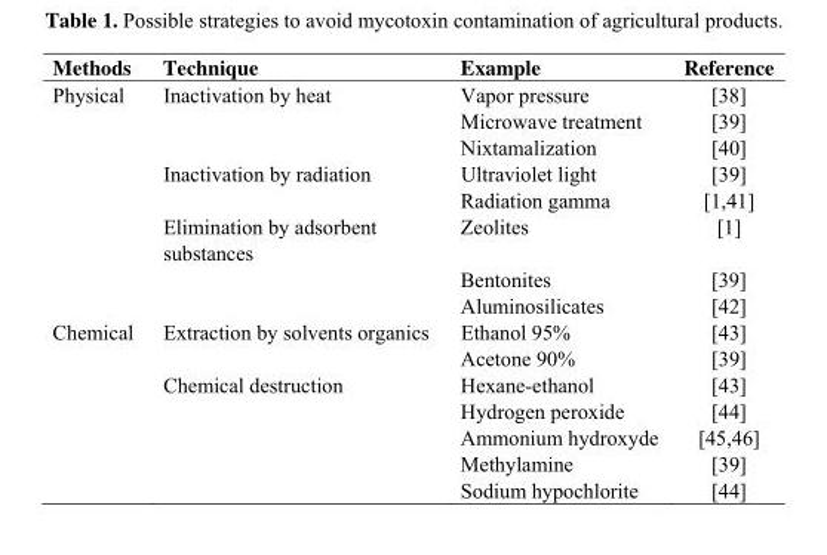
<table><thead><tr><td>Methods</td><td>Technique</td><td>Example</td><td>Reference</td></tr></thead><tbody><tr><td rowspan="8">Physical</td><td>Inactivation by heat</td><td>Vapor pressure</td><td>[38]</td></tr><tr><td></td><td>Microwave treatment</td><td>[39]</td></tr><tr><td></td><td>Nixtamalization</td><td>[40]</td></tr><tr><td>Inactivation by radiation</td><td>Ultraviolet light</td><td>[39]</td></tr><tr><td></td><td>Radiation gamma</td><td>[1,41]</td></tr><tr><td>Elimination by adsorbent substances</td><td>Zeolites</td><td>[1]</td></tr><tr><td></td><td>Bentonites</td><td>[39]</td></tr><tr><td></td><td>Aluminosilicates</td><td>[42]</td></tr><tr><td rowspan="7">Chemical</td><td>Extraction by solvents organics</td><td>Ethanol 95%</td><td>[43]</td></tr><tr><td></td><td>Acetone 90%</td><td>[39]</td></tr><tr><td>Chemical destruction</td><td>Hexane-ethanol</td><td>[43]</td></tr><tr><td></td><td>Hydrogen peroxide</td><td>[44]</td></tr><tr><td></td><td>Ammonium hydroxyde</td><td>[45,46]</td></tr><tr><td></td><td>Methylamine</td><td>[39]</td></tr><tr><td></td><td>Sodium hypochlorite</td><td>[44]</td></tr></tbody></table>